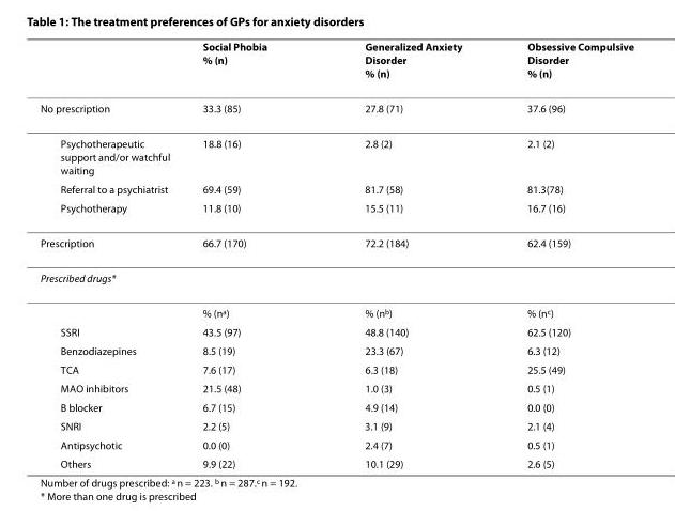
<table><thead><tr><td></td><td>Social Phobia % (n)</td><td>Generalized Anxiety Disorder % (n)</td><td>Obsessive Compulsive Disorder % (n)</td></tr></thead><tbody><tr><td>No prescription</td><td>33.3 (85)</td><td>27.8 (71)</td><td>37.6 (96)</td></tr><tr><td>Psychotherapeutic support and/or watchful waiting</td><td>18.8 (16)</td><td>2.8 (2)</td><td>2.1 (2)</td></tr><tr><td>Referral to a psychiatrist</td><td>69.4 (59)</td><td>81.7 (58)</td><td>81.3(78)</td></tr><tr><td>Psychotherapy</td><td>11.8 (10)</td><td>15.5 (11)</td><td>16.7 (16)</td></tr><tr><td>Prescription</td><td>66.7 (170)</td><td>72.2 (184)</td><td>62.4 (159)</td></tr><tr><td colspan="4">Prescribed drugs*</td></tr><tr><td></td><td>% (n<sup>a</sup>)</td><td>% (n<sup>b</sup>)</td><td>% (n<sup>c</sup>)</td></tr><tr><td>SSRI</td><td>43.5 (97)</td><td>48.8 (140)</td><td>62.5 (120)</td></tr><tr><td>Benzodiazepines</td><td>8.5 (19)</td><td>23.3 (67)</td><td>6.3 (12)</td></tr><tr><td>TCA</td><td>7.6 (17)</td><td>6.3 (18)</td><td>25.5 (49)</td></tr><tr><td>MAO inhibitors</td><td>21.5 (48)</td><td>1.0 (3)</td><td>0.5 (1)</td></tr><tr><td>B blocker</td><td>6.7 (15)</td><td>4.9 (14)</td><td>0.0 (0)</td></tr><tr><td>SNRI</td><td>2.2 (5)</td><td>3.1 (9)</td><td>2.1 (4)</td></tr><tr><td>Antipsychotic</td><td>0.0 (0)</td><td>2.4 (7)</td><td>0.5 (1)</td></tr><tr><td>Others</td><td>9.9 (22)</td><td>10.1 (29)</td><td>2.6 (5)</td></tr></tbody></table>